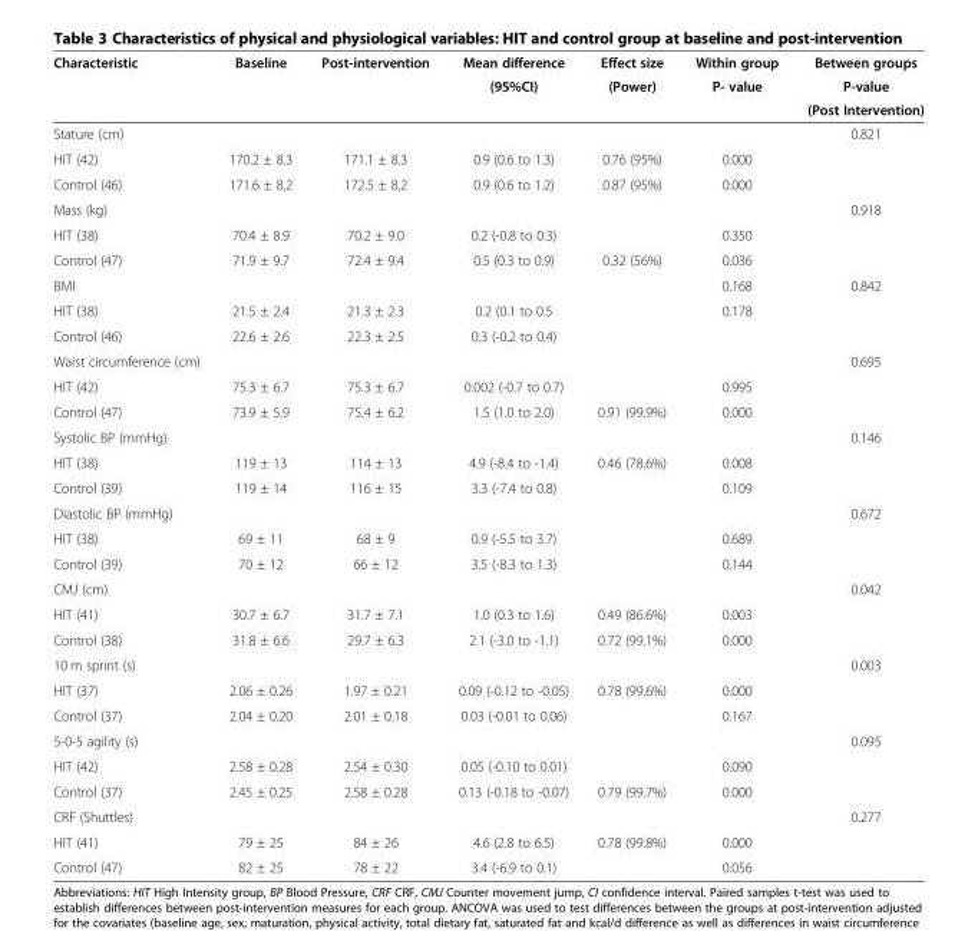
<table><thead><tr><td rowspan="3">Characteristic</td><td rowspan="3">Baseline</td><td rowspan="3">Post-intervention</td><td rowspan="3">Mean difference (95%CI)</td><td rowspan="3">Effect size (Power)</td><td rowspan="3">Within group P- value</td><td rowspan="3">Between groups P-value (Post Intervention)</td></tr><tr></tr><tr></tr></thead><tbody><tr><td>Stature (cm)</td><td></td><td></td><td></td><td></td><td></td><td>0.821</td></tr><tr><td>HIT (42)</td><td>170.2 ± 8.3</td><td>171.1 ± 8.3</td><td>0.9 (0.6 to 1.3)</td><td>0.76 (95%)</td><td>0.000</td><td rowspan="2"></td></tr><tr><td>Control (46)</td><td>171.6 ± 8.2</td><td>172.5 ± 8.2</td><td>0.9 (0.6 to 1.2)</td><td>0.87 (95%)</td><td>0.000</td></tr><tr><td>Mass (kg)</td><td></td><td></td><td></td><td></td><td></td><td>0.918</td></tr><tr><td>HIT (38)</td><td>70.4 ± 8.9</td><td>70.2 ± 9.0</td><td>0.2 (-0.8 to 0.3)</td><td></td><td>0.350</td><td rowspan="2"></td></tr><tr><td>Control (47)</td><td>71.9 ± 9.7</td><td>72.4 ± 9.4</td><td>0.5 (0.3 to 0.9)</td><td>0.32 (56%)</td><td>0.036</td></tr><tr><td>BMI</td><td></td><td></td><td></td><td></td><td>0.168</td><td>0.842</td></tr><tr><td>HIT (38)</td><td>21.5 ± 2.4</td><td>21.3 ± 2.3</td><td>0.2 (0.1 to 0.5</td><td></td><td>0.178</td><td rowspan="2"></td></tr><tr><td>Control (46)</td><td>22.6 ± 2.6</td><td>22.3 ± 2.5</td><td>0.3 (-0.2 to 0.4)</td><td></td><td></td></tr><tr><td>Waist circumference (cm)</td><td></td><td></td><td></td><td></td><td></td><td>0.695</td></tr><tr><td>HIT (42)</td><td>75.3 ± 6.7</td><td>75.3 ± 6.7</td><td>0.002 (-0.7 to 0.7)</td><td></td><td>0.995</td><td rowspan="2"></td></tr><tr><td>Control (47)</td><td>73.9 ± 5.9</td><td>75.4 ± 6.2</td><td>1.5 (1.0 to 2.0)</td><td>0.91 (99.9%)</td><td>0.000</td></tr><tr><td>Systolic BP (mmHg)</td><td></td><td></td><td></td><td></td><td></td><td>0.146</td></tr><tr><td>HIT (38)</td><td>119 ± 13</td><td>114 ± 13</td><td>4.9 (-8.4 to -1.4)</td><td>0.46 (78.6%)</td><td>0.008</td><td></td></tr><tr><td>Control (39)</td><td>119 ± 14</td><td>116 ± 15</td><td>3.3 (-7.4 to 0.8)</td><td></td><td>0.109</td><td></td></tr><tr><td>Diastolic BP (mmHg)</td><td></td><td></td><td></td><td></td><td></td><td>0.672</td></tr><tr><td>HIT (38)</td><td>69 ± 11</td><td>68 ± 9</td><td>0.9 (-5.5 to 3.7)</td><td></td><td>0.689</td><td rowspan="2"></td></tr><tr><td>Control (39)</td><td>70 ± 12</td><td>66 ± 12</td><td>3.5 (-8.3 to 1.3)</td><td></td><td>0.144</td></tr><tr><td>CMJ (cm)</td><td></td><td></td><td></td><td></td><td></td><td>0.042</td></tr><tr><td>HIT (41)</td><td>30.7 ± 6.7</td><td>31.7 ± 7.1</td><td>1.0 (0.3 to 1.6)</td><td>0.49 (86.6%)</td><td>0.003</td><td rowspan="2"></td></tr><tr><td>Control (38)</td><td>31.8 ± 6.6</td><td>29.7 ± 6.3</td><td>2.1 (-3.0 to -1.1)</td><td>0.72 (99.1%)</td><td>0.000</td></tr><tr><td>10 m sprint (s)</td><td></td><td></td><td></td><td></td><td></td><td>0.003</td></tr><tr><td>HIT (37)</td><td>2.06 ± 0.26</td><td>1.97 ± 0.21</td><td>0.09 (-0.12 to -0.05)</td><td>0.78 (99.6%)</td><td>0.000</td><td rowspan="2"></td></tr><tr><td>Control (37)</td><td>2.04 ± 0.20</td><td>2.01 ± 0.18</td><td>0.03 (-0.01 to 0.06)</td><td></td><td>0.167</td></tr><tr><td>5-0-5 agility (s)</td><td></td><td></td><td></td><td></td><td></td><td>0.095</td></tr><tr><td>HIT (42)</td><td>2.58 ± 0.28</td><td>2.54 ± 0.30</td><td>0.05 (-0.10 to 0.01)</td><td></td><td>0.090</td><td rowspan="2"></td></tr><tr><td>Control (37)</td><td>2.45 ± 0.25</td><td>2.58 ± 0.28</td><td>0.13 (-0.18 to -0.07)</td><td>0.79 (99.7%)</td><td>0.000</td></tr><tr><td>CRF (Shuttles)</td><td></td><td></td><td></td><td></td><td></td><td>0.277</td></tr><tr><td>HIT (41)</td><td>79 ± 25</td><td>84 ± 26</td><td>4.6 (2.8 to 6.5)</td><td>0.78 (99.8%)</td><td>0.000</td><td rowspan="2"></td></tr><tr><td>Control (47)</td><td>82 ± 25</td><td>78 ± 22</td><td>3.4 (-6.9 to 0.1)</td><td></td><td>0.056</td></tr></tbody></table>